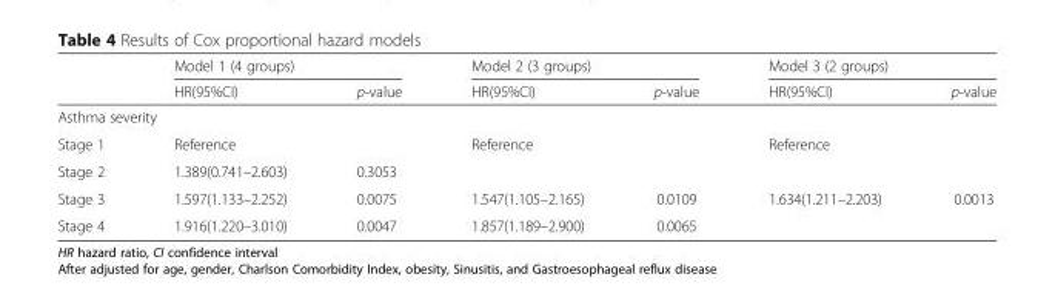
<table><thead><tr><td rowspan="2"></td><td colspan="2">Model 1 (4 groups)</td><td colspan="2">Model 2 (3 groups)</td><td colspan="2">Model 3 (2 groups)</td></tr><tr><td>HR(95%CI)</td><td>p-value</td><td>HR(95%CI)</td><td>p-value</td><td>HR(95%CI)</td><td>p-value</td></tr></thead><tbody><tr><td colspan="7">Asthma severity</td></tr><tr><td>Stage 1</td><td>Reference</td><td></td><td rowspan="2">Reference</td><td rowspan="2"></td><td rowspan="2">Reference</td><td rowspan="2"></td></tr><tr><td>Stage 2</td><td>1.389(0.741–2.603)</td><td>0.3053</td></tr><tr><td>Stage 3</td><td>1.597(1.133–2.252)</td><td>0.0075</td><td>1.547(1.105–2.165)</td><td>0.0109</td><td rowspan="2">1.634(1.211–2.203)</td><td rowspan="2">0.0013</td></tr><tr><td>Stage 4</td><td>1.916(1.220–3.010)</td><td>0.0047</td><td>1.857(1.189–2.900)</td><td>0.0065</td></tr></tbody></table>